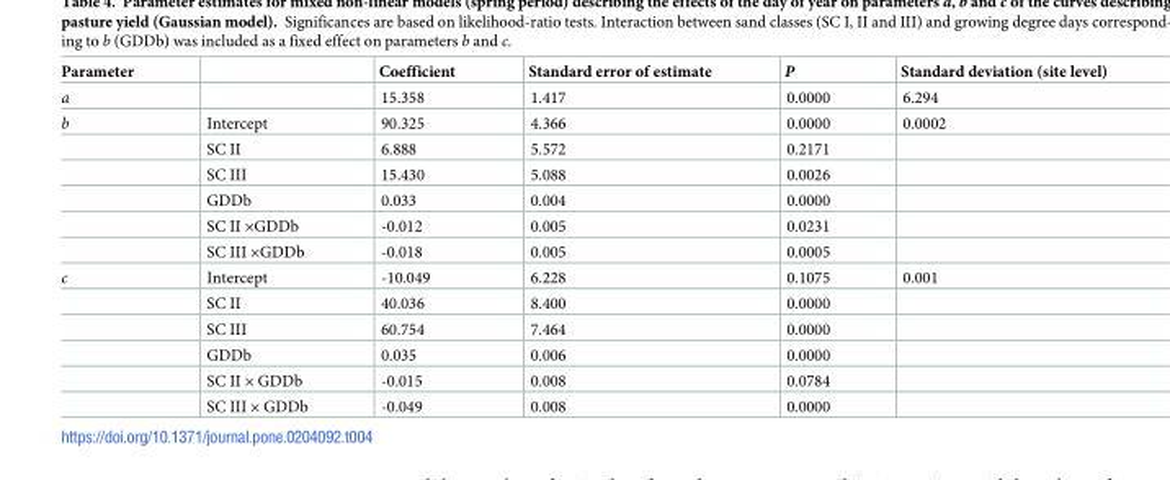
<table><thead><tr><td>Parameter</td><td></td><td>Coefficient</td><td>Standard error of estimate</td><td>P</td><td>Standard deviation (site level)</td></tr></thead><tbody><tr><td>a</td><td></td><td>15.358</td><td>1.417</td><td>0.0000</td><td>6.294</td></tr><tr><td rowspan="6">b</td><td>Intercept</td><td>90.325</td><td>4.366</td><td>0.0000</td><td>0.0002</td></tr><tr><td>SC II</td><td>6.888</td><td>5.572</td><td>0.2171</td><td></td></tr><tr><td>SC III</td><td>15.430</td><td>5.088</td><td>0.0026</td><td></td></tr><tr><td>GDDb</td><td>0.033</td><td>0.004</td><td>0.0000</td><td></td></tr><tr><td>SC II ×GDDb</td><td>-0.012</td><td>0.005</td><td>0.0231</td><td></td></tr><tr><td>SC III ×GDDb</td><td>-0.018</td><td>0.005</td><td>0.0005</td><td></td></tr><tr><td rowspan="6">c</td><td>Intercept</td><td>-10.049</td><td>6.228</td><td>0.1075</td><td>0.001</td></tr><tr><td>SC II</td><td>40.036</td><td>8.400</td><td>0.0000</td><td></td></tr><tr><td>SC III</td><td>60.754</td><td>7.464</td><td>0.0000</td><td></td></tr><tr><td>GDDb</td><td>0.035</td><td>0.006</td><td>0.0000</td><td></td></tr><tr><td>SC II × GDDb</td><td>-0.015</td><td>0.008</td><td>0.0784</td><td></td></tr><tr><td>SC III × GDDb</td><td>-0.049</td><td>0.008</td><td>0.0000</td><td></td></tr></tbody></table>